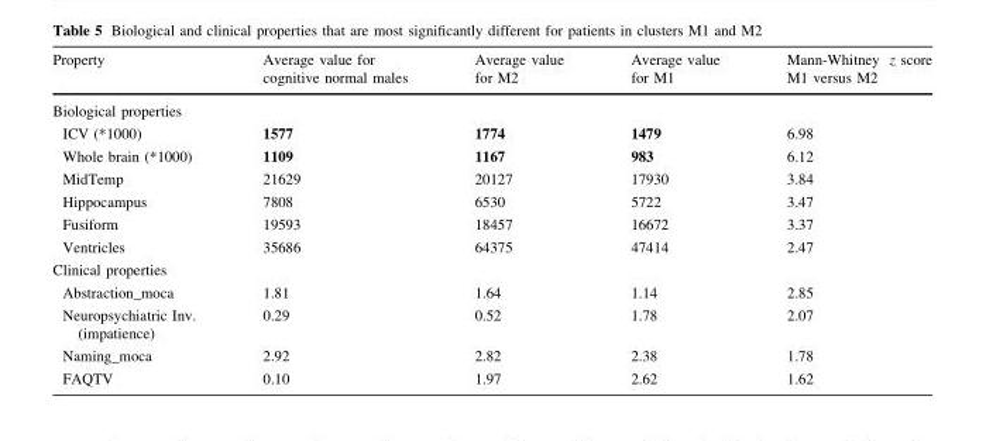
<table><thead><tr><td>Property</td><td>Average value for cognitive normal males</td><td>Average value for M2</td><td>Average value for M1</td><td>Mann-Whitney z score M1 versus M2</td></tr></thead><tbody><tr><td colspan="5">Biological properties</td></tr><tr><td>ICV (*1000)</td><td>1577</td><td>1774</td><td>1479</td><td>6.98</td></tr><tr><td>Whole brain (*1000)</td><td>1109</td><td>1167</td><td>983</td><td>6.12</td></tr><tr><td>MidTemp</td><td>21629</td><td>20127</td><td>17930</td><td>3.84</td></tr><tr><td>Hippocampus</td><td>7808</td><td>6530</td><td>5722</td><td>3.47</td></tr><tr><td>Fusiform</td><td>19593</td><td>18457</td><td>16672</td><td>3.37</td></tr><tr><td>Ventricles</td><td>35686</td><td>64375</td><td>47414</td><td>2.47</td></tr><tr><td colspan="5">Clinical properties</td></tr><tr><td>Abstraction_moca</td><td>1.81</td><td>1.64</td><td>1.14</td><td>2.85</td></tr><tr><td>Neuropsychiatric Inv. (impatience)</td><td>0.29</td><td>0.52</td><td>1.78</td><td>2.07</td></tr><tr><td>Naming_moca</td><td>2.92</td><td>2.82</td><td>2.38</td><td>1.78</td></tr><tr><td>FAQTV</td><td>0.10</td><td>1.97</td><td>2.62</td><td>1.62</td></tr></tbody></table>